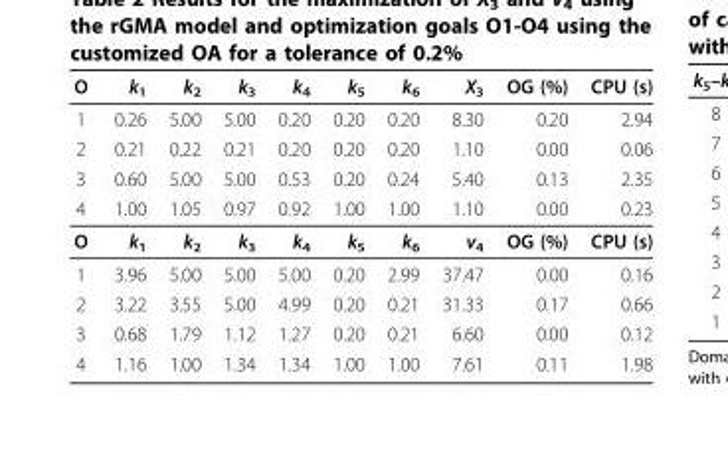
<table><thead><tr><td>O</td><td>k<sub>1</sub></td><td>k<sub>2</sub></td><td>k<sub>3</sub></td><td>k<sub>4</sub></td><td>k<sub>5</sub></td><td>k<sub>6</sub></td><td>X<sub>3</sub></td><td>OG (%)</td><td>CPU (s)</td></tr></thead><tbody><tr><td>1</td><td>0.26</td><td>5.00</td><td>5.00</td><td>0.20</td><td>0.20</td><td>0.20</td><td>8.30</td><td>0.20</td><td>2.94</td></tr><tr><td>2</td><td>0.21</td><td>0.22</td><td>0.21</td><td>0.20</td><td>0.20</td><td>0.20</td><td>1.10</td><td>0.00</td><td>0.06</td></tr><tr><td>3</td><td>0.60</td><td>5.00</td><td>5.00</td><td>0.53</td><td>0.20</td><td>0.24</td><td>5.40</td><td>0.13</td><td>2.35</td></tr><tr><td>4</td><td>1.00</td><td>1.05</td><td>0.97</td><td>0.92</td><td>1.00</td><td>1.00</td><td>1.10</td><td>0.00</td><td>0.23</td></tr><tr><td>O</td><td>k<sub>1</sub></td><td>k<sub>2</sub></td><td>k<sub>3</sub></td><td>k<sub>4</sub></td><td>k<sub>5</sub></td><td>k<sub>6</sub></td><td>v<sub>4</sub></td><td>OG (%)</td><td>CPU (s)</td></tr><tr><td>1</td><td>3.96</td><td>5.00</td><td>5.00</td><td>5.00</td><td>0.20</td><td>2.99</td><td>37.47</td><td>0.00</td><td>0.16</td></tr><tr><td>2</td><td>3.22</td><td>3.55</td><td>5.00</td><td>4.99</td><td>0.20</td><td>0.21</td><td>31.33</td><td>0.17</td><td>0.66</td></tr><tr><td>3</td><td>0.68</td><td>1.79</td><td>1.12</td><td>1.27</td><td>0.20</td><td>0.21</td><td>6.60</td><td>0.00</td><td>0.12</td></tr><tr><td>4</td><td>1.16</td><td>1.00</td><td>1.34</td><td>1.34</td><td>1.00</td><td>1.00</td><td>7.61</td><td>0.11</td><td>1.98</td></tr></tbody></table>